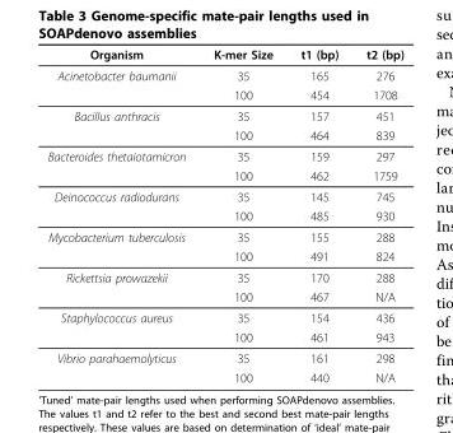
<table><thead><tr><td>Organism</td><td>K-mer Size</td><td>t1 (bp)</td><td>t2 (bp)</td></tr></thead><tbody><tr><td rowspan="2">Acinetobacter baumanii</td><td>35</td><td>165</td><td>276</td></tr><tr><td>100</td><td>454</td><td>1708</td></tr><tr><td rowspan="2">Bacillus anthracis</td><td>35</td><td>157</td><td>451</td></tr><tr><td>100</td><td>464</td><td>839</td></tr><tr><td rowspan="2">Bacteroides thetaiotamicron</td><td>35</td><td>159</td><td>297</td></tr><tr><td>100</td><td>462</td><td>1759</td></tr><tr><td rowspan="2">Deinococcus radiodurans</td><td>35</td><td>145</td><td>745</td></tr><tr><td>100</td><td>485</td><td>930</td></tr><tr><td rowspan="2">Mycobacterium tuberculosis</td><td>35</td><td>155</td><td>288</td></tr><tr><td>100</td><td>491</td><td>824</td></tr><tr><td rowspan="2">Rickettsia prowazekii</td><td>35</td><td>170</td><td>288</td></tr><tr><td>100</td><td>467</td><td>N/A</td></tr><tr><td rowspan="2">Staphylococcus aureus</td><td>35</td><td>154</td><td>436</td></tr><tr><td>100</td><td>461</td><td>943</td></tr><tr><td rowspan="2">Vibrio parahaemolyticus</td><td>35</td><td>161</td><td>298</td></tr><tr><td>100</td><td>440</td><td>N/A</td></tr></tbody></table>